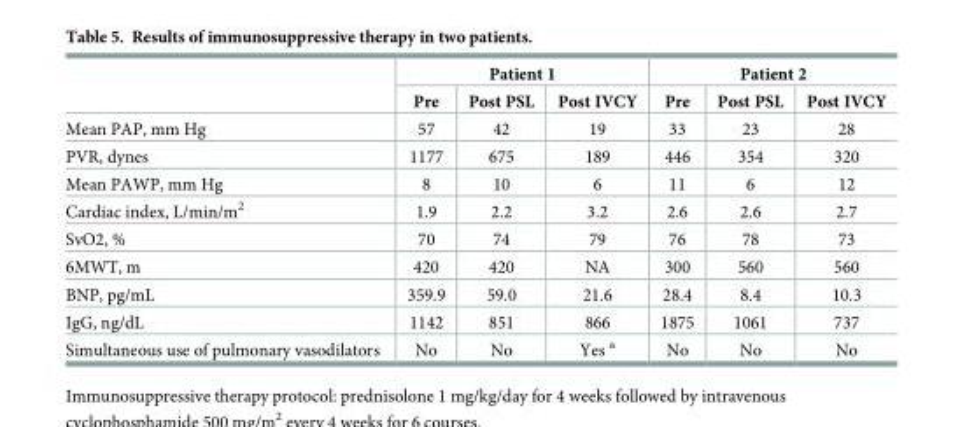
<table><thead><tr><td rowspan="2"></td><td colspan="3">Patient 1</td><td colspan="3">Patient 2</td></tr><tr><td>Pre</td><td>Post PSL</td><td>Post IVCY</td><td>Pre</td><td>Post PSL</td><td>Post IVCY</td></tr></thead><tbody><tr><td>Mean PAP, mm Hg</td><td>57</td><td>42</td><td>19</td><td>33</td><td>23</td><td>28</td></tr><tr><td>PVR, dynes</td><td>1177</td><td>675</td><td>189</td><td>446</td><td>354</td><td>320</td></tr><tr><td>Mean PAWP, mm Hg</td><td>8</td><td>10</td><td>6</td><td>11</td><td>6</td><td>12</td></tr><tr><td>Cardiac index, L/min/m<sup>2</sup></td><td>1.9</td><td>2.2</td><td>3.2</td><td>2.6</td><td>2.6</td><td>2.7</td></tr><tr><td>SvO2, %</td><td>70</td><td>74</td><td>79</td><td>76</td><td>78</td><td>73</td></tr><tr><td>6MWT, m</td><td>420</td><td>420</td><td>NA</td><td>300</td><td>560</td><td>560</td></tr><tr><td>BNP, pg/mL</td><td>359.9</td><td>59.0</td><td>21.6</td><td>28.4</td><td>8.4</td><td>10.3</td></tr><tr><td>IgG, ng/dL</td><td>1142</td><td>851</td><td>866</td><td>1875</td><td>1061</td><td>737</td></tr><tr><td>Simultaneous use of pulmonary vasodilators</td><td>No</td><td>No</td><td>Yes <sup>a</sup></td><td>No</td><td>No</td><td>No</td></tr></tbody></table>